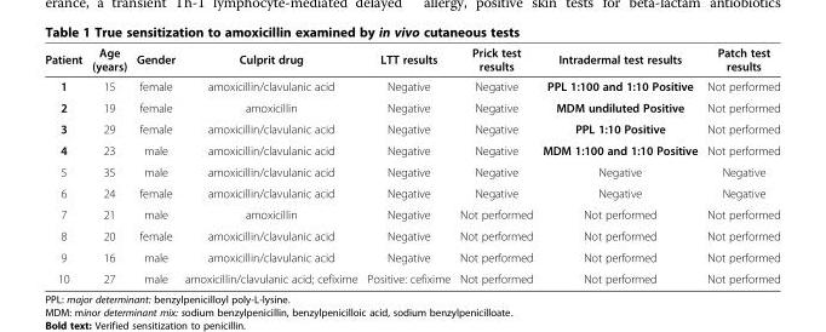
<table><thead><tr><td>Patient</td><td>Age (years)</td><td>Gender</td><td>Culprit drug</td><td>LTT results</td><td>Prick test results</td><td>Intradermal test results</td><td>Patch test results</td></tr></thead><tbody><tr><td>1</td><td>15</td><td>female</td><td>amoxicillin/clavulanic acid</td><td>Negative</td><td>Negative</td><td>PPL 1:100 and 1:10 Positive</td><td>Not performed</td></tr><tr><td>2</td><td>19</td><td>female</td><td>amoxicillin</td><td>Negative</td><td>Negative</td><td>MDM undiluted Positive</td><td>Not performed</td></tr><tr><td>3</td><td>29</td><td>female</td><td>amoxicillin/clavulanic acid</td><td>Negative</td><td>Negative</td><td>PPL 1:10 Positive</td><td>Not performed</td></tr><tr><td>4</td><td>23</td><td>male</td><td>amoxicillin/clavulanic acid</td><td>Negative</td><td>Negative</td><td>MDM 1:100 and 1:10 Positive</td><td>Not performed</td></tr><tr><td>5</td><td>35</td><td>male</td><td>amoxicillin/clavulanic acid</td><td>Negative</td><td>Negative</td><td>Negative</td><td>Negative</td></tr><tr><td>6</td><td>24</td><td>female</td><td>amoxicillin/clavulanic acid</td><td>Negative</td><td>Negative</td><td>Negative</td><td>Negative</td></tr><tr><td>7</td><td>21</td><td>male</td><td>amoxicillin</td><td>Negative</td><td>Not performed</td><td>Not performed</td><td>Not performed</td></tr><tr><td>8</td><td>20</td><td>female</td><td>amoxicillin/clavulanic acid</td><td>Negative</td><td>Not performed</td><td>Not performed</td><td>Not performed</td></tr><tr><td>9</td><td>16</td><td>male</td><td>amoxicillin/clavulanic acid</td><td>Negative</td><td>Not performed</td><td>Not performed</td><td>Not performed</td></tr><tr><td>10</td><td>27</td><td>male</td><td>amoxicillin/clavulanic acid; cefixime</td><td>Positive: cefixime</td><td>Not performed</td><td>Not performed</td><td>Not performed</td></tr></tbody></table>